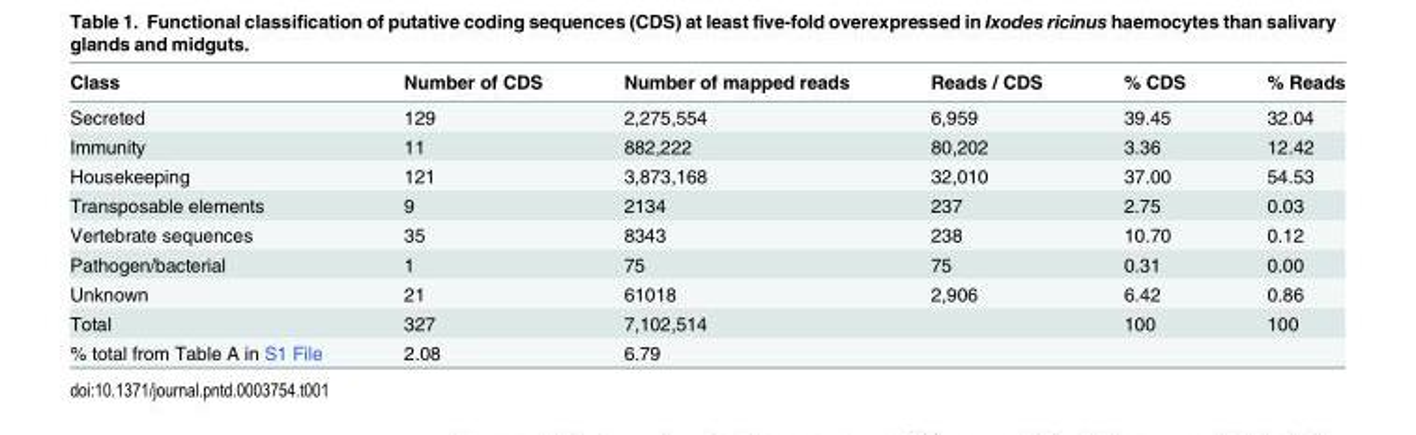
<table><thead><tr><td>Class</td><td>Number of CDS</td><td>Number of mapped reads</td><td>Reads / CDS</td><td>% CDS</td><td>% Reads</td></tr></thead><tbody><tr><td>Secreted</td><td>129</td><td>2,275,554</td><td>6,959</td><td>39.45</td><td>32.04</td></tr><tr><td>Immunity</td><td>11</td><td>882,222</td><td>80,202</td><td>3.36</td><td>12.42</td></tr><tr><td>Housekeeping</td><td>121</td><td>3,873,168</td><td>32,010</td><td>37.00</td><td>54.53</td></tr><tr><td>Transposable elements</td><td>9</td><td>2134</td><td>237</td><td>2.75</td><td>0.03</td></tr><tr><td>Vertebrate sequences</td><td>35</td><td>8343</td><td>238</td><td>10.70</td><td>0.12</td></tr><tr><td>Pathogen/bacterial</td><td>1</td><td>75</td><td>75</td><td>0.31</td><td>0.00</td></tr><tr><td>Unknown</td><td>21</td><td>61018</td><td>2,906</td><td>6.42</td><td>0.86</td></tr><tr><td>Total</td><td>327</td><td>7,102,514</td><td></td><td>100</td><td>100</td></tr><tr><td>% total from Table A in S1 File</td><td>2.08</td><td>6.79</td><td></td><td></td><td></td></tr></tbody></table>